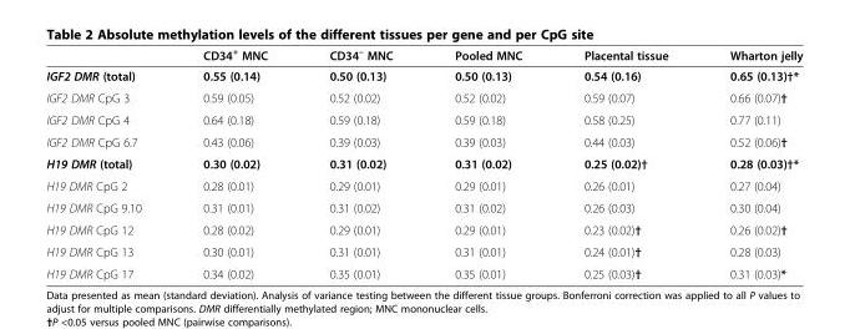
<table><thead><tr><td></td><td>CD34<sup>+</sup> MNC</td><td>CD34<sup>–</sup> MNC</td><td>Pooled MNC</td><td>Placental tissue</td><td>Wharton jelly</td></tr></thead><tbody><tr><td>IGF2 DMR (total)</td><td>0.55 (0.14)</td><td>0.50 (0.13)</td><td>0.50 (0.13)</td><td>0.54 (0.16)</td><td>0.65 (0.13)†*</td></tr><tr><td>IGF2 DMR CpG 3</td><td>0.59 (0.05)</td><td>0.52 (0.02)</td><td>0.52 (0.02)</td><td>0.59 (0.07)</td><td>0.66 (0.07)†</td></tr><tr><td>IGF2 DMR CpG 4</td><td>0.64 (0.18)</td><td>0.59 (0.18)</td><td>0.59 (0.18)</td><td>0.58 (0.25)</td><td>0.77 (0.11)</td></tr><tr><td>IGF2 DMR CpG 6.7</td><td>0.43 (0.06)</td><td>0.39 (0.03)</td><td>0.39 (0.03)</td><td>0.44 (0.03)</td><td>0.52 (0.06)†</td></tr><tr><td>H19 DMR (total)</td><td>0.30 (0.02)</td><td>0.31 (0.02)</td><td>0.31 (0.02)</td><td>0.25 (0.02)†</td><td>0.28 (0.03)†*</td></tr><tr><td>H19 DMR CpG 2</td><td>0.28 (0.01)</td><td>0.29 (0.01)</td><td>0.29 (0.01)</td><td>0.26 (0.01)</td><td>0.27 (0.04)</td></tr><tr><td>H19 DMR CpG 9.10</td><td>0.31 (0.01)</td><td>0.31 (0.02)</td><td>0.31 (0.02)</td><td>0.26 (0.03)</td><td>0.30 (0.04)</td></tr><tr><td>H19 DMR CpG 12</td><td>0.28 (0.02)</td><td>0.29 (0.01)</td><td>0.29 (0.01)</td><td>0.23 (0.02)†</td><td>0.26 (0.02)†</td></tr><tr><td>H19 DMR CpG 13</td><td>0.30 (0.01)</td><td>0.31 (0.01)</td><td>0.31 (0.01)</td><td>0.24 (0.01)†</td><td>0.28 (0.03)</td></tr><tr><td>H19 DMR CpG 17</td><td>0.34 (0.02)</td><td>0.35 (0.01)</td><td>0.35 (0.01)</td><td>0.25 (0.03)†</td><td>0.31 (0.03)*</td></tr></tbody></table>